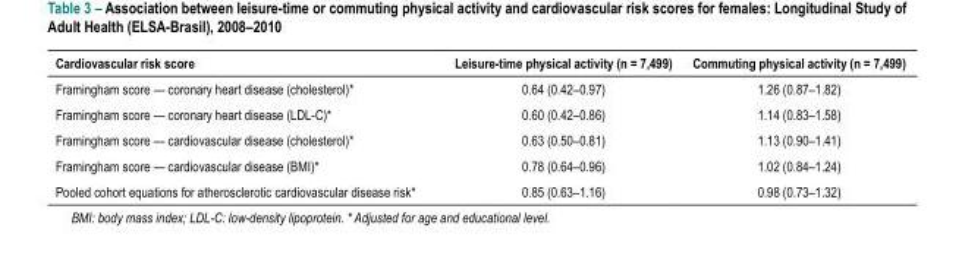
<table><thead><tr><td>Cardiovascular risk score</td><td>Leisure-time physical activity (n = 7,499)</td><td>Commuting physical activity (n = 7,499)</td></tr></thead><tbody><tr><td>Framingham score — coronary heart disease (cholesterol)*</td><td>0.64 (0.42–0.97)</td><td>1.26 (0.87–1.82)</td></tr><tr><td>Framingham score — coronary heart disease (LDL-C)*</td><td>0.60 (0.42–0.86)</td><td>1.14 (0.83–1.58)</td></tr><tr><td>Framingham score — cardiovascular disease (cholesterol)*</td><td>0.63 (0.50–0.81)</td><td>1.13 (0.90–1.41)</td></tr><tr><td>Framingham score — cardiovascular disease (BMI)*</td><td>0.78 (0.64–0.96)</td><td>1.02 (0.84–1.24)</td></tr><tr><td>Pooled cohort equations for atherosclerotic cardiovascular disease risk*</td><td>0.85 (0.63–1.16)</td><td>0.98 (0.73–1.32)</td></tr></tbody></table>